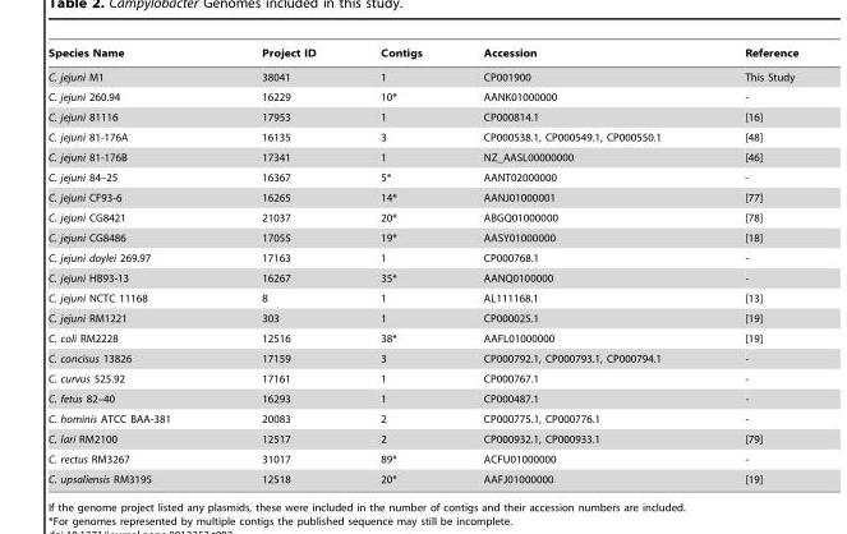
<table><thead><tr><td>Species Name</td><td>Project ID</td><td>Contigs</td><td>Accession</td><td>Reference</td></tr></thead><tbody><tr><td>C. jejuni M1</td><td>38041</td><td>1</td><td>CP001900</td><td>This Study</td></tr><tr><td>C. jejuni 260.94</td><td>16229</td><td>10*</td><td>AANK01000000</td><td>-</td></tr><tr><td>C. jejuni 81116</td><td>17953</td><td>1</td><td>CP000814.1</td><td>[16]</td></tr><tr><td>C. jejuni 81-176A</td><td>16135</td><td>3</td><td>CP000538.1, CP000549.1, CP000550.1</td><td>[48]</td></tr><tr><td>C. jejuni 81-176B</td><td>17341</td><td>1</td><td>NZ_AASL00000000</td><td>[46]</td></tr><tr><td>C. jejuni 84–25</td><td>16367</td><td>5*</td><td>AANT02000000</td><td>-</td></tr><tr><td>C. jejuni CF93-6</td><td>16265</td><td>14*</td><td>AANJ01000001</td><td>[77]</td></tr><tr><td>C. jejuni CG8421</td><td>21037</td><td>20*</td><td>ABGQ01000000</td><td>[78]</td></tr><tr><td>C. jejuni CG8486</td><td>17055</td><td>19*</td><td>AASY01000000</td><td>[18]</td></tr><tr><td>C. jejuni doylei 269.97</td><td>17163</td><td>1</td><td>CP000768.1</td><td>-</td></tr><tr><td>C. jejuni HB93-13</td><td>16267</td><td>35*</td><td>AANQ0100000</td><td>-</td></tr><tr><td>C. jejuni NCTC 11168</td><td>8</td><td>1</td><td>AL111168.1</td><td>[13]</td></tr><tr><td>C. jejuni RM1221</td><td>303</td><td>1</td><td>CP000025.1</td><td>[19]</td></tr><tr><td>C. coli RM2228</td><td>12516</td><td>38*</td><td>AAFL01000000</td><td>[19]</td></tr><tr><td>C. concisus 13826</td><td>17159</td><td>3</td><td>CP000792.1, CP000793.1, CP000794.1</td><td>-</td></tr><tr><td>C. curvus 525.92</td><td>17161</td><td>1</td><td>CP000767.1</td><td>-</td></tr><tr><td>C. fetus 82–40</td><td>16293</td><td>1</td><td>CP000487.1</td><td>-</td></tr><tr><td>C. hominis ATCC BAA-381</td><td>20083</td><td>2</td><td>CP000775.1, CP000776.1</td><td>-</td></tr><tr><td>C. lari RM2100</td><td>12517</td><td>2</td><td>CP000932.1, CP000933.1</td><td>[79]</td></tr><tr><td>C. rectus RM3267</td><td>31017</td><td>89*</td><td>ACFU01000000</td><td>-</td></tr><tr><td>C. upsaliensis RM3195</td><td>12518</td><td>20*</td><td>AAFJ01000000</td><td>[19]</td></tr></tbody></table>